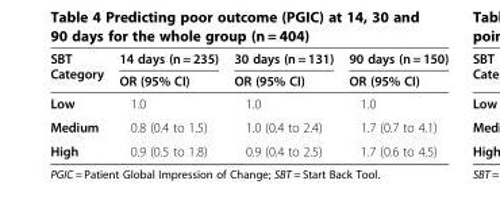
<table><thead><tr><td rowspan="2">SBT Category</td><td rowspan="2">14 days (n = 235) OR (95% CI)</td><td rowspan="2">30 days (n = 131) OR (95% CI)</td><td rowspan="2">90 days (n = 150) OR (95% CI)</td></tr><tr></tr></thead><tbody><tr><td>Low</td><td>1.0</td><td>1.0</td><td>1.0</td></tr><tr><td>Medium</td><td>0.8 (0.4 to 1.5)</td><td>1.0 (0.4 to 2.4)</td><td>1.7 (0.7 to 4.1)</td></tr><tr><td>High</td><td>0.9 (0.5 to 1.8)</td><td>0.9 (0.4 to 2.5)</td><td>1.7 (0.6 to 4.5)</td></tr></tbody></table>